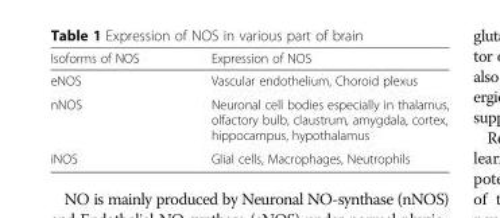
<table><thead><tr><td>Isoforms of NOS</td><td>Expression of NOS</td></tr></thead><tbody><tr><td>eNOS</td><td>Vascular endothelium, Choroid plexus</td></tr><tr><td>nNOS</td><td>Neuronal cell bodies especially in thalamus, olfactory bulb, claustrum, amygdala, cortex, hippocampus, hypothalamus</td></tr><tr><td>iNOS</td><td>Glial cells, Macrophages, Neutrophils</td></tr></tbody></table>